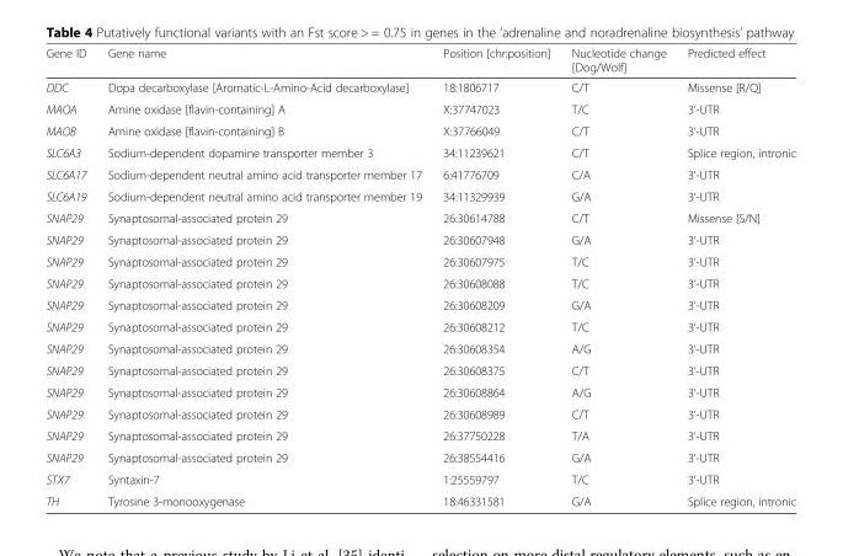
<table><thead><tr><td>Gene ID</td><td>Gene name</td><td>Position [chr:position]</td><td>Nucleotide change [Dog/Wolf]</td><td>Predicted effect</td></tr></thead><tbody><tr><td>DDC</td><td>Dopa decarboxylase [Aromatic-L-Amino-Acid decarboxylase]</td><td>18:1806717</td><td>C/T</td><td>Missense [R/Q]</td></tr><tr><td>MAOA</td><td>Amine oxidase [flavin-containing] A</td><td>X:37747023</td><td>T/C</td><td>3‘-UTR</td></tr><tr><td>MAOB</td><td>Amine oxidase [flavin-containing] B</td><td>X:37766049</td><td>C/T</td><td>3‘-UTR</td></tr><tr><td>SLC6A3</td><td>Sodium-dependent dopamine transporter member 3</td><td>34:11239621</td><td>C/T</td><td>Splice region, intronic</td></tr><tr><td>SLC6A17</td><td>Sodium-dependent neutral amino acid transporter member 17</td><td>6:41776709</td><td>C/A</td><td>3‘-UTR</td></tr><tr><td>SLC6A19</td><td>Sodium-dependent neutral amino acid transporter member 19</td><td>34:11329939</td><td>G/A</td><td>3‘-UTR</td></tr><tr><td>SNAP29</td><td>Synaptosomal-associated protein 29</td><td>26:30614788</td><td>C/T</td><td>Missense [S/N]</td></tr><tr><td>SNAP29</td><td>Synaptosomal-associated protein 29</td><td>26:30607948</td><td>G/A</td><td>3‘-UTR</td></tr><tr><td>SNAP29</td><td>Synaptosomal-associated protein 29</td><td>26:30607975</td><td>T/C</td><td>3‘-UTR</td></tr><tr><td>SNAP29</td><td>Synaptosomal-associated protein 29</td><td>26:30608088</td><td>T/C</td><td>3‘-UTR</td></tr><tr><td>SNAP29</td><td>Synaptosomal-associated protein 29</td><td>26:30608209</td><td>G/A</td><td>3‘-UTR</td></tr><tr><td>SNAP29</td><td>Synaptosomal-associated protein 29</td><td>26:30608212</td><td>T/C</td><td>3‘-UTR</td></tr><tr><td>SNAP29</td><td>Synaptosomal-associated protein 29</td><td>26:30608354</td><td>A/G</td><td>3‘-UTR</td></tr><tr><td>SNAP29</td><td>Synaptosomal-associated protein 29</td><td>26:30608375</td><td>C/T</td><td>3‘-UTR</td></tr><tr><td>SNAP29</td><td>Synaptosomal-associated protein 29</td><td>26:30608864</td><td>A/G</td><td>3‘-UTR</td></tr><tr><td>SNAP29</td><td>Synaptosomal-associated protein 29</td><td>26:30608989</td><td>C/T</td><td>3‘-UTR</td></tr><tr><td>SNAP29</td><td>Synaptosomal-associated protein 29</td><td>26:37750228</td><td>T/A</td><td>3‘-UTR</td></tr><tr><td>SNAP29</td><td>Synaptosomal-associated protein 29</td><td>26:38554416</td><td>G/A</td><td>3‘-UTR</td></tr><tr><td>STX7</td><td>Syntaxin-7</td><td>1:25559797</td><td>T/C</td><td>3‘-UTR</td></tr><tr><td>TH</td><td>Tyrosine 3-monooxygenase</td><td>18:46331581</td><td>G/A</td><td>Splice region, intronic</td></tr></tbody></table>